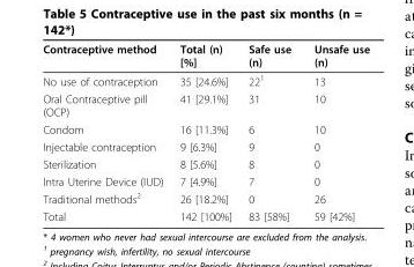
<table><thead><tr><td>Contraceptive method</td><td>Total (n) [%]</td><td>Safe use (n)</td><td>Unsafe use (n)</td></tr></thead><tbody><tr><td>No use of contraception</td><td>35 [24.6%]</td><td>22<sup>1</sup></td><td>13</td></tr><tr><td>Oral Contraceptive pill (OCP)</td><td>41 [29.1%]</td><td>31</td><td>10</td></tr><tr><td>Condom</td><td>16 [11.3%]</td><td>6</td><td>10</td></tr><tr><td>Injectable contraception</td><td>9 [6.3%]</td><td>9</td><td>0</td></tr><tr><td>Sterilization</td><td>8 [5.6%]</td><td>8</td><td>0</td></tr><tr><td>Intra Uterine Device (IUD)</td><td>7 [4.9%]</td><td>7</td><td>0</td></tr><tr><td>Traditional methods<sup>2</sup></td><td>26 [18.2%]</td><td>0</td><td>26</td></tr><tr><td>Total</td><td>142 [100%]</td><td>83 [58%]</td><td>59 [42%]</td></tr></tbody></table>